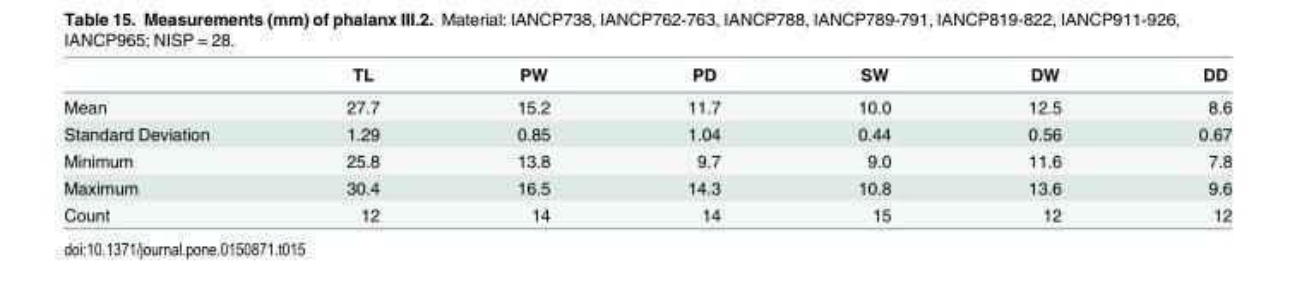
<table><thead><tr><td></td><td>TL</td><td>PW</td><td>PD</td><td>SW</td><td>DW</td><td>DD</td></tr></thead><tbody><tr><td>Mean</td><td>27.7</td><td>15.2</td><td>11.7</td><td>10.0</td><td>12.5</td><td>8.6</td></tr><tr><td>Standard Deviation</td><td>1.29</td><td>0.85</td><td>1.04</td><td>0.44</td><td>0.56</td><td>0.67</td></tr><tr><td>Minimum</td><td>25.8</td><td>13.8</td><td>9.7</td><td>9.0</td><td>11.6</td><td>7.8</td></tr><tr><td>Maximum</td><td>30.4</td><td>16.5</td><td>14.3</td><td>10.8</td><td>13.6</td><td>9.6</td></tr><tr><td>Count</td><td>12</td><td>14</td><td>14</td><td>15</td><td>12</td><td>12</td></tr></tbody></table>